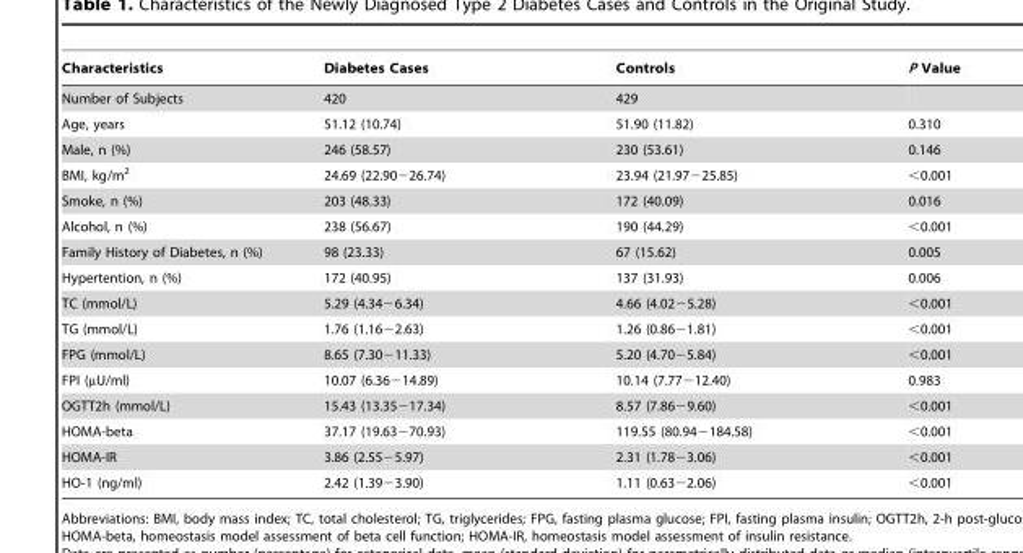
<table><thead><tr><td>Characteristics</td><td>Diabetes Cases</td><td>Controls</td><td>P Value</td></tr></thead><tbody><tr><td>Number of Subjects</td><td>420</td><td>429</td><td></td></tr><tr><td>Age, years</td><td>51.12 (10.74)</td><td>51.90 (11.82)</td><td>0.310</td></tr><tr><td>Male, n (%)</td><td>246 (58.57)</td><td>230 (53.61)</td><td>0.146</td></tr><tr><td>BMI, kg/m<sup>2</sup></td><td>24.69 (22.90−26.74)</td><td>23.94 (21.97−25.85)</td><td>&lt;0.001</td></tr><tr><td>Smoke, n (%)</td><td>203 (48.33)</td><td>172 (40.09)</td><td>0.016</td></tr><tr><td>Alcohol, n (%)</td><td>238 (56.67)</td><td>190 (44.29)</td><td>&lt;0.001</td></tr><tr><td>Family History of Diabetes, n (%)</td><td>98 (23.33)</td><td>67 (15.62)</td><td>0.005</td></tr><tr><td>Hypertention, n (%)</td><td>172 (40.95)</td><td>137 (31.93)</td><td>0.006</td></tr><tr><td>TC (mmol/L)</td><td>5.29 (4.34−6.34)</td><td>4.66 (4.02−5.28)</td><td>&lt;0.001</td></tr><tr><td>TG (mmol/L)</td><td>1.76 (1.16−2.63)</td><td>1.26 (0.86−1.81)</td><td>&lt;0.001</td></tr><tr><td>FPG (mmol/L)</td><td>8.65 (7.30−11.33)</td><td>5.20 (4.70−5.84)</td><td>&lt;0.001</td></tr><tr><td>FPI (µU/ml)</td><td>10.07 (6.36−14.89)</td><td>10.14 (7.77−12.40)</td><td>0.983</td></tr><tr><td>OGTT2h (mmol/L)</td><td>15.43 (13.35−17.34)</td><td>8.57 (7.86−9.60)</td><td>&lt;0.001</td></tr><tr><td>HOMA-beta</td><td>37.17 (19.63−70.93)</td><td>119.55 (80.94−184.58)</td><td>&lt;0.001</td></tr><tr><td>HOMA-IR</td><td>3.86 (2.55−5.97)</td><td>2.31 (1.78−3.06)</td><td>&lt;0.001</td></tr><tr><td>HO-1 (ng/ml)</td><td>2.42 (1.39−3.90)</td><td>1.11 (0.63−2.06)</td><td>&lt;0.001</td></tr></tbody></table>